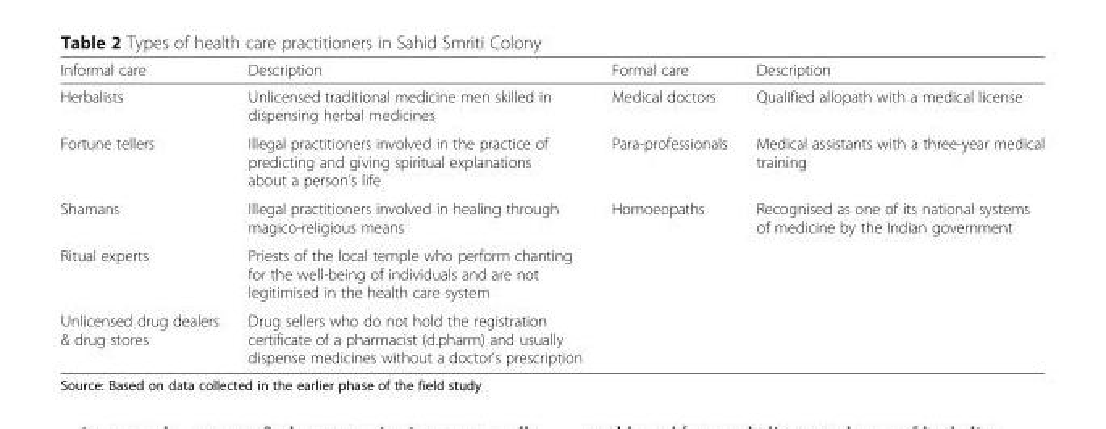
<table><thead><tr><td>Informal care</td><td>Description</td><td>Formal care</td><td>Description</td></tr></thead><tbody><tr><td>Herbalists</td><td>Unlicensed traditional medicine men skilled in dispensing herbal medicines</td><td>Medical doctors</td><td>Qualified allopath with a medical license</td></tr><tr><td>Fortune tellers</td><td>Illegal practitioners involved in the practice of predicting and giving spiritual explanations about a person’s life</td><td>Para-professionals</td><td>Medical assistants with a three-year medical training</td></tr><tr><td>Shamans</td><td>Illegal practitioners involved in healing through magico-religious means</td><td>Homoeopaths</td><td>Recognised as one of its national systems of medicine by the Indian government</td></tr><tr><td>Ritual experts</td><td>Priests of the local temple who perform chanting for the well-being of individuals and are not legitimised in the health care system</td><td></td><td></td></tr><tr><td>Unlicensed drug dealers &amp; drug stores</td><td>Drug sellers who do not hold the registration certificate of a pharmacist (d.pharm) and usually dispense medicines without a doctor’s prescription</td><td></td><td></td></tr></tbody></table>